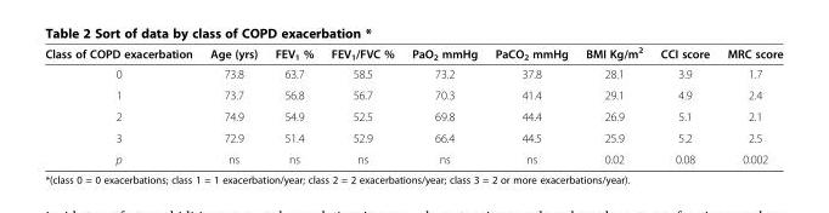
<table><thead><tr><td>Class of COPD exacerbation</td><td>Age (yrs)</td><td>FEV<sub>1</sub> %</td><td>FEV<sub>1</sub>/FVC %</td><td>PaO<sub>2</sub> mmHg</td><td>PaCO<sub>2</sub> mmHg</td><td>BMI Kg/m<sup>2</sup></td><td>CCI score</td><td>MRC score</td></tr></thead><tbody><tr><td>0</td><td>73.8</td><td>63.7</td><td>58.5</td><td>73.2</td><td>37.8</td><td>28.1</td><td>3.9</td><td>1.7</td></tr><tr><td>1</td><td>73.7</td><td>56.8</td><td>56.7</td><td>70.3</td><td>41.4</td><td>29.1</td><td>4.9</td><td>2.4</td></tr><tr><td>2</td><td>74.9</td><td>54.9</td><td>52.5</td><td>69.8</td><td>44.4</td><td>26.9</td><td>5.1</td><td>2.1</td></tr><tr><td>3</td><td>72.9</td><td>51.4</td><td>52.9</td><td>66.4</td><td>44.5</td><td>25.9</td><td>5.2</td><td>2.5</td></tr><tr><td>p</td><td>ns</td><td>ns</td><td>ns</td><td>ns</td><td>ns</td><td>0.02</td><td>0.08</td><td>0.002</td></tr></tbody></table>